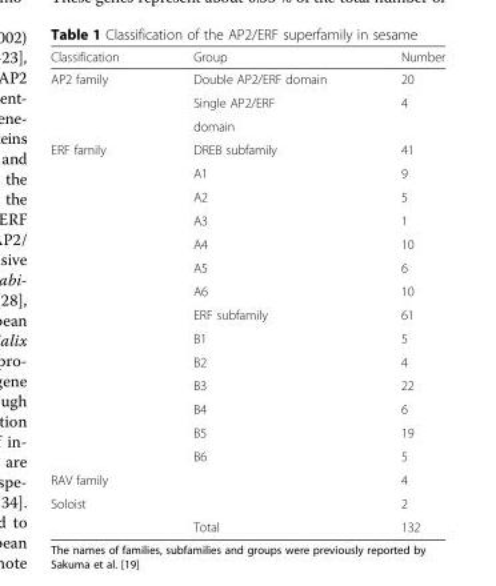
<table><thead><tr><td>Classification</td><td>Group</td><td>Number</td></tr></thead><tbody><tr><td rowspan="3">AP2 family</td><td>Double AP2/ERF domain</td><td>20</td></tr><tr><td>Single AP2/ERF</td><td rowspan="2">4</td></tr><tr><td>domain</td></tr><tr><td rowspan="14">ERF family</td><td>DREB subfamily</td><td>41</td></tr><tr><td>A1</td><td>9</td></tr><tr><td>A2</td><td>5</td></tr><tr><td>A3</td><td>1</td></tr><tr><td>A4</td><td>10</td></tr><tr><td>A5</td><td>6</td></tr><tr><td>A6</td><td>10</td></tr><tr><td>ERF subfamily</td><td>61</td></tr><tr><td>B1</td><td>5</td></tr><tr><td>B2</td><td>4</td></tr><tr><td>B3</td><td>22</td></tr><tr><td>B4</td><td>6</td></tr><tr><td>B5</td><td>19</td></tr><tr><td>B6</td><td>5</td></tr><tr><td>RAV family</td><td></td><td>4</td></tr><tr><td rowspan="2">Soloist</td><td></td><td>2</td></tr><tr><td>Total</td><td>132</td></tr></tbody></table>